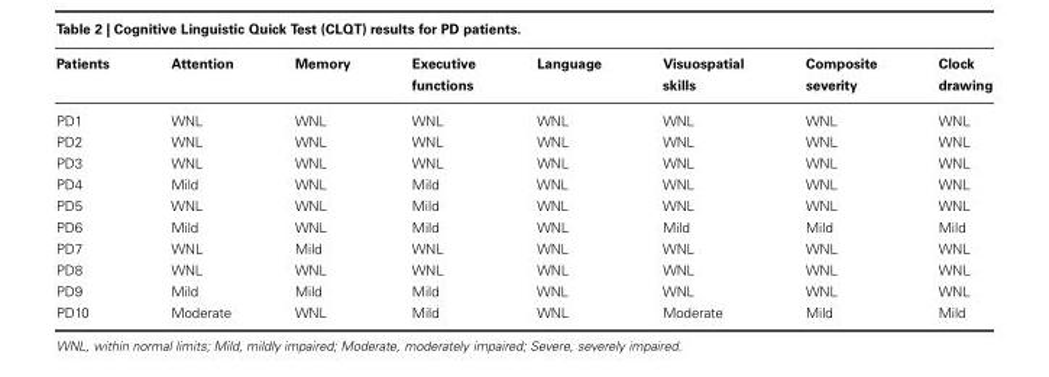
<table><thead><tr><td>Patients</td><td>Attention</td><td>Memory</td><td>Executive functions</td><td>Language</td><td>Visuospatial skills</td><td>Composite severity</td><td>Clock drawing</td></tr></thead><tbody><tr><td>PD1</td><td>WNL</td><td>WNL</td><td>WNL</td><td>WNL</td><td>WNL</td><td>WNL</td><td>WNL</td></tr><tr><td>PD2</td><td>WNL</td><td>WNL</td><td>WNL</td><td>WNL</td><td>WNL</td><td>WNL</td><td>WNL</td></tr><tr><td>PD3</td><td>WNL</td><td>WNL</td><td>WNL</td><td>WNL</td><td>WNL</td><td>WNL</td><td>WNL</td></tr><tr><td>PD4</td><td>Mild</td><td>WNL</td><td>Mild</td><td>WNL</td><td>WNL</td><td>WNL</td><td>WNL</td></tr><tr><td>PD5</td><td>WNL</td><td>WNL</td><td>Mild</td><td>WNL</td><td>WNL</td><td>WNL</td><td>WNL</td></tr><tr><td>PD6</td><td>Mild</td><td>WNL</td><td>Mild</td><td>WNL</td><td>Mild</td><td>Mild</td><td>Mild</td></tr><tr><td>PD7</td><td>WNL</td><td>Mild</td><td>WNL</td><td>WNL</td><td>WNL</td><td>WNL</td><td>WNL</td></tr><tr><td>PD8</td><td>WNL</td><td>WNL</td><td>WNL</td><td>WNL</td><td>WNL</td><td>WNL</td><td>WNL</td></tr><tr><td>PD9</td><td>Mild</td><td>Mild</td><td>Mild</td><td>WNL</td><td>WNL</td><td>WNL</td><td>WNL</td></tr><tr><td>PD10</td><td>Moderate</td><td>WNL</td><td>Mild</td><td>WNL</td><td>Moderate</td><td>Mild</td><td>Mild</td></tr></tbody></table>